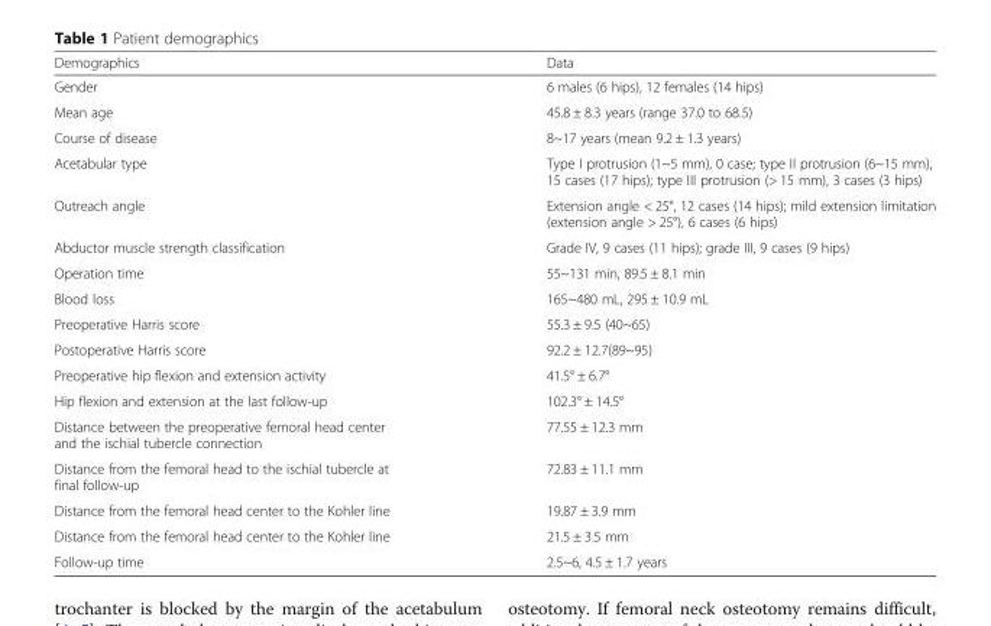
<table><thead><tr><td>Demographics</td><td>Data</td></tr></thead><tbody><tr><td>Gender</td><td>6 males (6 hips), 12 females (14 hips)</td></tr><tr><td>Mean age</td><td>45.8 ± 8.3 years (range 37.0 to 68.5)</td></tr><tr><td>Course of disease</td><td>8~17 years (mean 9.2 ± 1.3 years)</td></tr><tr><td>Acetabular type</td><td>Type I protrusion (1~5 mm), 0 case; type II protrusion (6~15 mm), 15 cases (17 hips); type III protrusion (&gt; 15 mm), 3 cases (3 hips)</td></tr><tr><td>Outreach angle</td><td>Extension angle &lt; 25°, 12 cases (14 hips); mild extension limitation (extension angle &gt; 25°), 6 cases (6 hips)</td></tr><tr><td>Abductor muscle strength classification</td><td>Grade IV, 9 cases (11 hips); grade III, 9 cases (9 hips)</td></tr><tr><td>Operation time</td><td>55~131 min, 89.5 ± 8.1 min</td></tr><tr><td>Blood loss</td><td>165~480 mL, 295 ± 10.9 mL</td></tr><tr><td>Preoperative Harris score</td><td>55.3 ± 9.5 (40~65)</td></tr><tr><td>Postoperative Harris score</td><td>92.2 ± 12.7(89~95)</td></tr><tr><td>Preoperative hip flexion and extension activity</td><td>41.5° ± 6.7°</td></tr><tr><td>Hip flexion and extension at the last follow-up</td><td>102.3° ± 14.5°</td></tr><tr><td>Distance between the preoperative femoral head center and the ischial tubercle connection</td><td>77.55 ± 12.3 mm</td></tr><tr><td>Distance from the femoral head to the ischial tubercle at final follow-up</td><td>72.83 ± 11.1 mm</td></tr><tr><td>Distance from the femoral head center to the Kohler line</td><td>19.87 ± 3.9 mm</td></tr><tr><td>Distance from the femoral head center to the Kohler line</td><td>21.5 ± 3.5 mm</td></tr><tr><td>Follow-up time</td><td>2.5~6, 4.5 ± 1.7 years</td></tr></tbody></table>